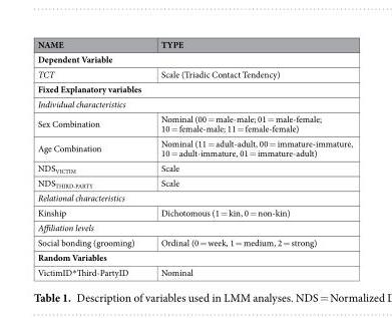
<table><thead><tr><td>NAME</td><td>TYPE</td></tr></thead><tbody><tr><td colspan="2">Dependent Variable</td></tr><tr><td>TCT</td><td>Scale (Triadic Contact Tendency)</td></tr><tr><td colspan="2">Fixed Explanatory variables</td></tr><tr><td colspan="2">Individual characteristics</td></tr><tr><td>Sex Combination</td><td>Nominal (00 = male-male; 01 = male-female; 10 = female-male; 11 = female-female)</td></tr><tr><td>Age Combination</td><td>Nominal (11 = adult-adult, 00 = immature-immature, 10 = adult-immature, 01 = immature-adult)</td></tr><tr><td>NDS<sub>VICTIM</sub></td><td>Scale</td></tr><tr><td>NDS<sub>THIRD-PARTY</sub></td><td>Scale</td></tr><tr><td colspan="2">Relational characteristics</td></tr><tr><td>Kinship</td><td>Dichotomous (1 = kin, 0 = non-kin)</td></tr><tr><td colspan="2">Affiliation levels</td></tr><tr><td>Social bonding (grooming)</td><td>Ordinal (0 = week, 1 = medium, 2 = strong)</td></tr><tr><td colspan="2">Random Variables</td></tr><tr><td>VictimID*Third-PartyID</td><td>Nominal</td></tr></tbody></table>